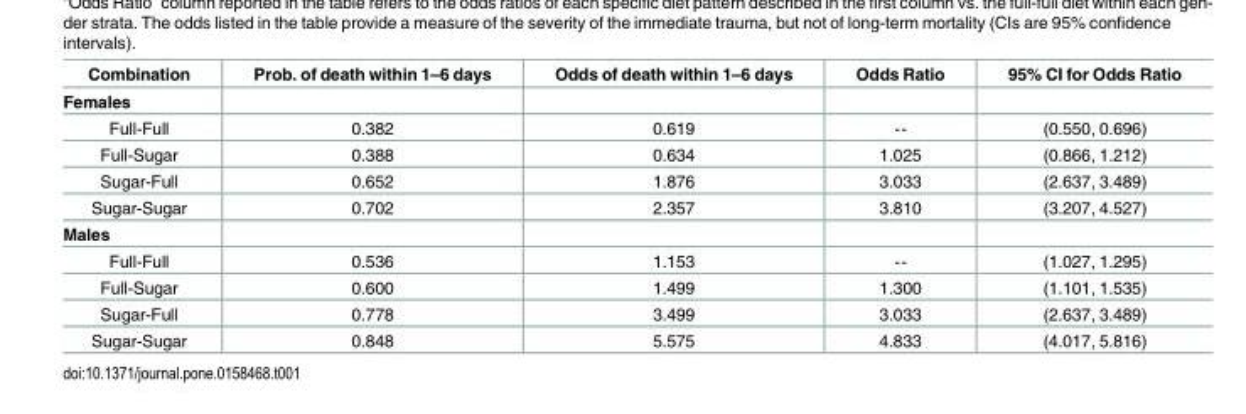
<table><thead><tr><td>Combination</td><td>Prob. of death within 1–6 days</td><td>Odds of death within 1–6 days</td><td>Odds Ratio</td><td>95% CI for Odds Ratio</td></tr></thead><tbody><tr><td colspan="5">Females</td></tr><tr><td>Full-Full</td><td>0.382</td><td>0.619</td><td>--</td><td>(0.550, 0.696)</td></tr><tr><td>Full-Sugar</td><td>0.388</td><td>0.634</td><td>1.025</td><td>(0.866, 1.212)</td></tr><tr><td>Sugar-Full</td><td>0.652</td><td>1.876</td><td>3.033</td><td>(2.637, 3.489)</td></tr><tr><td>Sugar-Sugar</td><td>0.702</td><td>2.357</td><td>3.810</td><td>(3.207, 4.527)</td></tr><tr><td colspan="5">Males</td></tr><tr><td>Full-Full</td><td>0.536</td><td>1.153</td><td>--</td><td>(1.027, 1.295)</td></tr><tr><td>Full-Sugar</td><td>0.600</td><td>1.499</td><td>1.300</td><td>(1.101, 1.535)</td></tr><tr><td>Sugar-Full</td><td>0.778</td><td>3.499</td><td>3.033</td><td>(2.637, 3.489)</td></tr><tr><td>Sugar-Sugar</td><td>0.848</td><td>5.575</td><td>4.833</td><td>(4.017, 5.816)</td></tr></tbody></table>